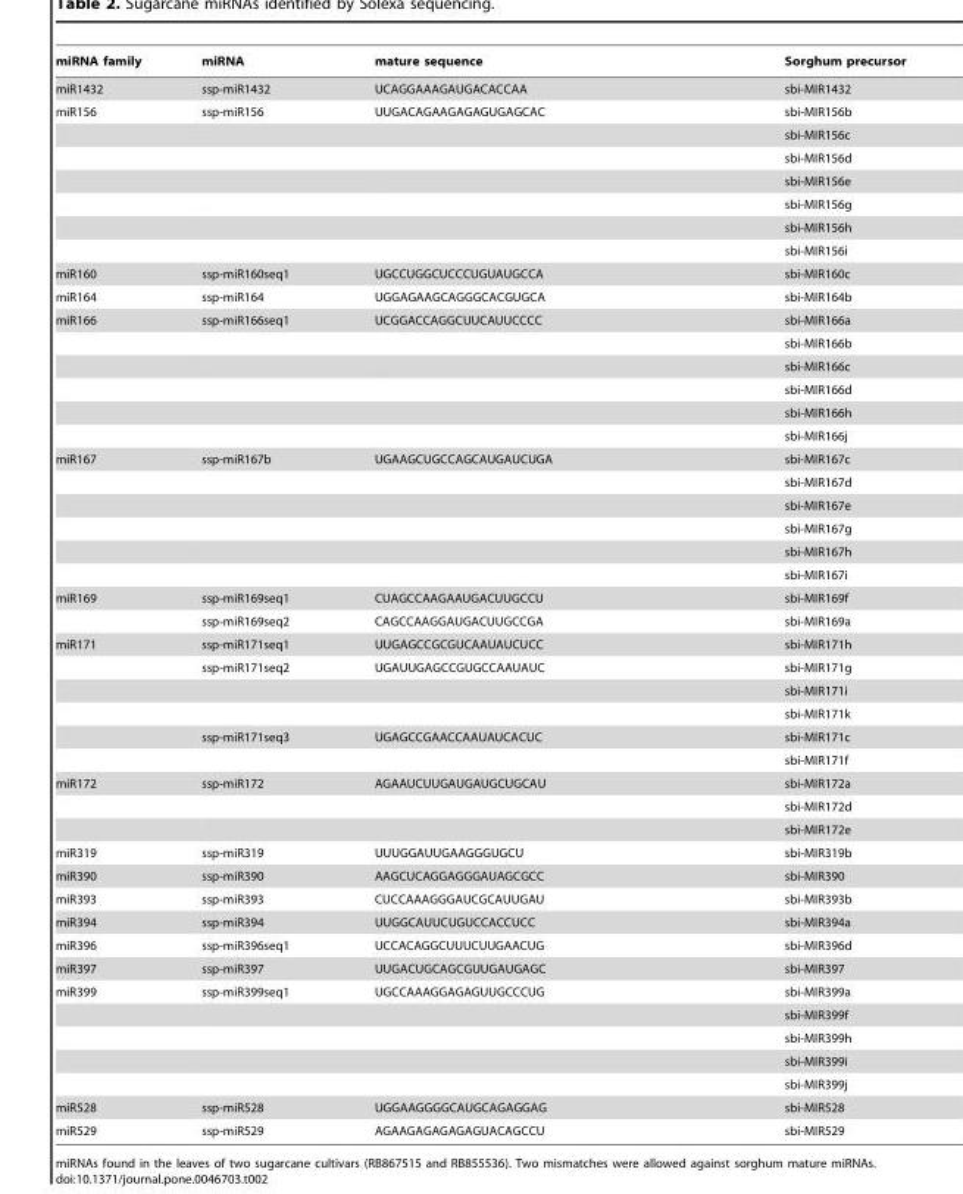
<table><thead><tr><td>miRNA family</td><td>miRNA</td><td>mature sequence</td><td>Sorghum precursor</td></tr></thead><tbody><tr><td>miR1432</td><td>ssp-miR1432</td><td>UCAGGAAAGAUGACACCAA</td><td>sbi-MIR1432</td></tr><tr><td rowspan="7">miR156</td><td>ssp-miR156</td><td>UUGACAGAAGAGAGUGAGCAC</td><td>sbi-MIR156b</td></tr><tr><td></td><td></td><td>sbi-MIR156c</td></tr><tr><td></td><td></td><td>sbi-MIR156d</td></tr><tr><td></td><td></td><td>sbi-MIR156e</td></tr><tr><td></td><td></td><td>sbi-MIR156g</td></tr><tr><td></td><td></td><td>sbi-MIR156h</td></tr><tr><td></td><td></td><td>sbi-MIR156i</td></tr><tr><td>miR160</td><td>ssp-miR160seq1</td><td>UGCCUGGCUCCCUGUAUGCCA</td><td>sbi-MIR160c</td></tr><tr><td>miR164</td><td>ssp-miR164</td><td>UGGAGAAGCAGGGCACGUGCA</td><td>sbi-MIR164b</td></tr><tr><td rowspan="6">miR166</td><td>ssp-miR166seq1</td><td>UCGGACCAGGCUUCAUUCCCC</td><td>sbi-MIR166a</td></tr><tr><td></td><td></td><td>sbi-MIR166b</td></tr><tr><td></td><td></td><td>sbi-MIR166c</td></tr><tr><td></td><td></td><td>sbi-MIR166d</td></tr><tr><td></td><td></td><td>sbi-MIR166h</td></tr><tr><td></td><td></td><td>sbi-MIR166j</td></tr><tr><td rowspan="6">miR167</td><td>ssp-miR167b</td><td>UGAAGCUGCCAGCAUGAUCUGA</td><td>sbi-MIR167c</td></tr><tr><td></td><td></td><td>sbi-MIR167d</td></tr><tr><td></td><td></td><td>sbi-MIR167e</td></tr><tr><td></td><td></td><td>sbi-MIR167g</td></tr><tr><td></td><td></td><td>sbi-MIR167h</td></tr><tr><td></td><td></td><td>sbi-MIR167i</td></tr><tr><td rowspan="2">miR169</td><td>ssp-miR169seq1</td><td>CUAGCCAAGAAUGACUUGCCU</td><td>sbi-MIR169f</td></tr><tr><td>ssp-miR169seq2</td><td>CAGCCAAGGAUGACUUGCCGA</td><td>sbi-MIR169a</td></tr><tr><td rowspan="6">miR171</td><td>ssp-miR171seq1</td><td>UUGAGCCGCGUCAAUAUCUCC</td><td>sbi-MIR171h</td></tr><tr><td>ssp-miR171seq2</td><td>UGAUUGAGCCGUGCCAAUAUC</td><td>sbi-MIR171g</td></tr><tr><td></td><td></td><td>sbi-MIR171i</td></tr><tr><td></td><td></td><td>sbi-MIR171k</td></tr><tr><td>ssp-miR171seq3</td><td>UGAGCCGAACCAAUAUCACUC</td><td>sbi-MIR171c</td></tr><tr><td></td><td></td><td>sbi-MIR171f</td></tr><tr><td rowspan="3">miR172</td><td>ssp-miR172</td><td>AGAAUCUUGAUGAUGCUGCAU</td><td>sbi-MIR172a</td></tr><tr><td></td><td></td><td>sbi-MIR172d</td></tr><tr><td></td><td></td><td>sbi-MIR172e</td></tr><tr><td>miR319</td><td>ssp-miR319</td><td>UUUGGAUUGAAGGGUGCU</td><td>sbi-MIR319b</td></tr><tr><td>miR390</td><td>ssp-miR390</td><td>AAGCUCAGGAGGGAUAGCGCC</td><td>sbi-MIR390</td></tr><tr><td>miR393</td><td>ssp-miR393</td><td>CUCCAAAGGGAUCGCAUUGAU</td><td>sbi-MIR393b</td></tr><tr><td>miR394</td><td>ssp-miR394</td><td>UUGGCAUUCUGUCCACCUCC</td><td>sbi-MIR394a</td></tr><tr><td>miR396</td><td>ssp-miR396seq1</td><td>UCCACAGGCUUUCUUGAACUG</td><td>sbi-MIR396d</td></tr><tr><td>miR397</td><td>ssp-miR397</td><td>UUGACUGCAGCGUUGAUGAGC</td><td>sbi-MIR397</td></tr><tr><td rowspan="5">miR399</td><td>ssp-miR399seq1</td><td>UGCCAAAGGAGAGUUGCCCUG</td><td>sbi-MIR399a</td></tr><tr><td></td><td></td><td>sbi-MIR399f</td></tr><tr><td></td><td></td><td>sbi-MIR399h</td></tr><tr><td></td><td></td><td>sbi-MIR399i</td></tr><tr><td></td><td></td><td>sbi-MIR399j</td></tr><tr><td>miR528</td><td>ssp-miR528</td><td>UGGAAGGGGCAUGCAGAGGAG</td><td>sbi-MIR528</td></tr><tr><td>miR529</td><td>ssp-miR529</td><td>AGAAGAGAGAGAGUACAGCCU</td><td>sbi-MIR529</td></tr></tbody></table>